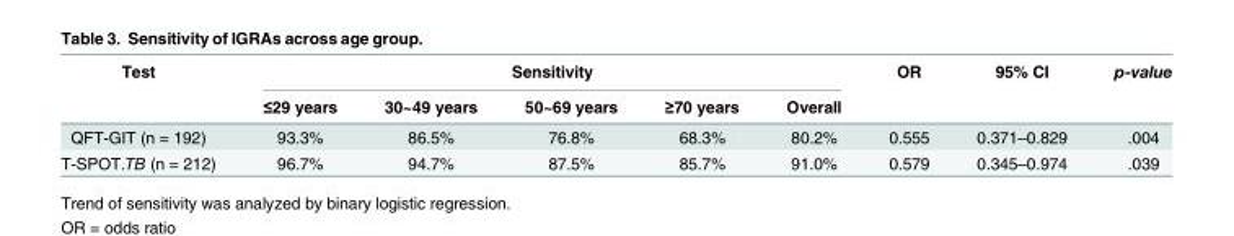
<table><thead><tr><td rowspan="2">Test</td><td colspan="5">Sensitivity</td><td rowspan="2">OR</td><td rowspan="2">95% CI</td><td rowspan="2">p-value</td></tr><tr><td>≤29 years</td><td>30~49 years</td><td>50~69 years</td><td>≥70 years</td><td>Overall</td></tr></thead><tbody><tr><td>QFT-GIT (n = 192)</td><td>93.3%</td><td>86.5%</td><td>76.8%</td><td>68.3%</td><td>80.2%</td><td>0.555</td><td>0.371–0.829</td><td>.004</td></tr><tr><td>T-SPOT.TB (n = 212)</td><td>96.7%</td><td>94.7%</td><td>87.5%</td><td>85.7%</td><td>91.0%</td><td>0.579</td><td>0.345–0.974</td><td>.039</td></tr></tbody></table>